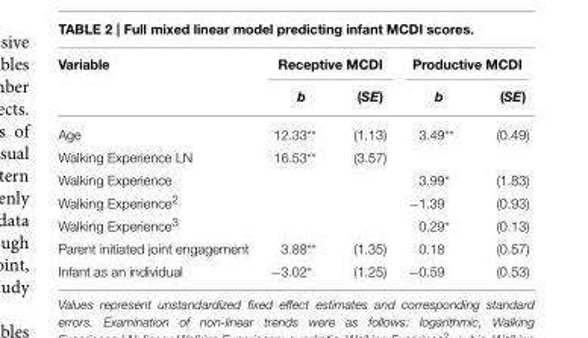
<table><thead><tr><td rowspan="2">Variable</td><td colspan="2">Receptive MCDI</td><td colspan="2">Productive MCDI</td></tr><tr><td>b</td><td>(SE)</td><td>b</td><td>(SE)</td></tr></thead><tbody><tr><td>Age</td><td>12.33**</td><td>(1.13)</td><td>3.49**</td><td>(0.49)</td></tr><tr><td>Walking Experience LN</td><td>16.53**</td><td>(3.57)</td><td></td><td></td></tr><tr><td>Walking Experience</td><td></td><td></td><td>3.99*</td><td>(1.83)</td></tr><tr><td>Walking Experience<sup>2</sup></td><td></td><td></td><td>−1.39</td><td>(0.93)</td></tr><tr><td>Walking Experience<sup>3</sup></td><td></td><td></td><td>0.29*</td><td>(0.13)</td></tr><tr><td>Parent initiated joint engagement</td><td>3.88**</td><td>(1.35)</td><td>0.18</td><td>(0.57)</td></tr><tr><td>Infant as an individual</td><td>−3.02*</td><td>(1.25)</td><td>−0.59</td><td>(0.53)</td></tr></tbody></table>